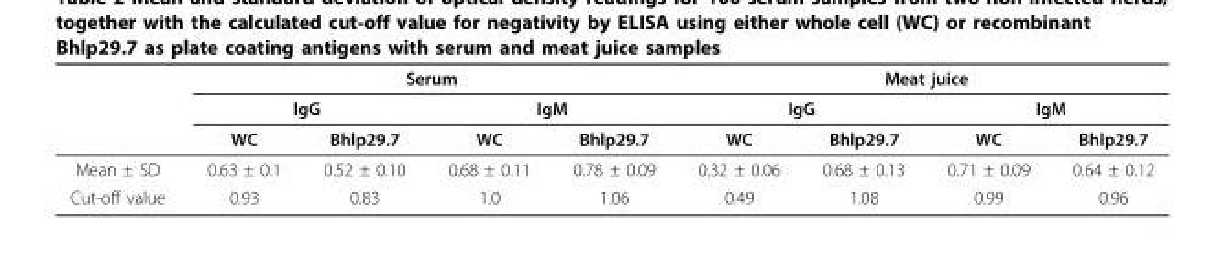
<table><thead><tr><td rowspan="3"></td><td colspan="4">Serum</td><td colspan="4">Meat juice</td></tr><tr><td colspan="2">IgG</td><td colspan="2">IgM</td><td colspan="2">IgG</td><td colspan="2">IgM</td></tr><tr><td>WC</td><td>Bhlp29.7</td><td>WC</td><td>Bhlp29.7</td><td>WC</td><td>Bhlp29.7</td><td>WC</td><td>Bhlp29.7</td></tr></thead><tbody><tr><td>Mean ± SD</td><td>0.63 ± 0.1</td><td>0.52 ± 0.10</td><td>0.68 ± 0.11</td><td>0.78 ± 0.09</td><td>0.32 ± 0.06</td><td>0.68 ± 0.13</td><td>0.71 ± 0.09</td><td>0.64 ± 0.12</td></tr><tr><td>Cut-off value</td><td>0.93</td><td>0.83</td><td>1.0</td><td>1.06</td><td>0.49</td><td>1.08</td><td>0.99</td><td>0.96</td></tr></tbody></table>